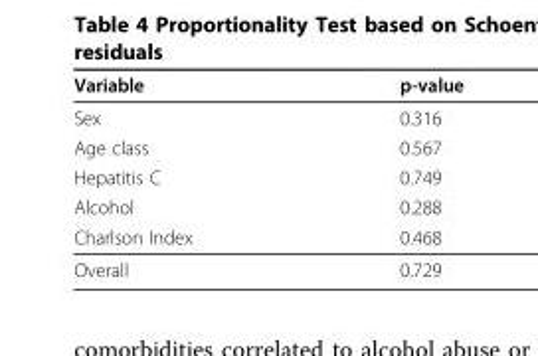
<table><thead><tr><td>Variable</td><td>p-value</td></tr></thead><tbody><tr><td>Sex</td><td>0.316</td></tr><tr><td>Age class</td><td>0.567</td></tr><tr><td>Hepatitis C</td><td>0.749</td></tr><tr><td>Alcohol</td><td>0.288</td></tr><tr><td>Charlson Index</td><td>0.468</td></tr><tr><td>Overall</td><td>0.729</td></tr></tbody></table>